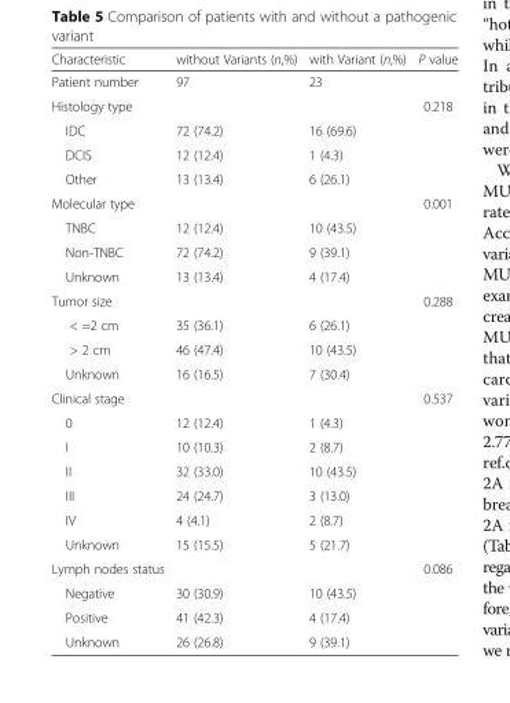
<table><thead><tr><td>Characteristic</td><td>without Variants (n,%)</td><td>with Variant (n,%)</td><td>P value</td></tr></thead><tbody><tr><td>Patient number</td><td>97</td><td>23</td><td></td></tr><tr><td>Histology type</td><td></td><td></td><td>0.218</td></tr><tr><td>IDC</td><td>72 (74.2)</td><td>16 (69.6)</td><td></td></tr><tr><td>DCIS</td><td>12 (12.4)</td><td>1 (4.3)</td><td></td></tr><tr><td>Other</td><td>13 (13.4)</td><td>6 (26.1)</td><td></td></tr><tr><td>Molecular type</td><td></td><td></td><td>0.001</td></tr><tr><td>TNBC</td><td>12 (12.4)</td><td>10 (43.5)</td><td></td></tr><tr><td>Non-TNBC</td><td>72 (74.2)</td><td>9 (39.1)</td><td></td></tr><tr><td>Unknown</td><td>13 (13.4)</td><td>4 (17.4)</td><td></td></tr><tr><td>Tumor size</td><td></td><td></td><td>0.288</td></tr><tr><td>&lt; =2 cm</td><td>35 (36.1)</td><td>6 (26.1)</td><td></td></tr><tr><td>&gt; 2 cm</td><td>46 (47.4)</td><td>10 (43.5)</td><td></td></tr><tr><td>Unknown</td><td>16 (16.5)</td><td>7 (30.4)</td><td></td></tr><tr><td>Clinical stage</td><td></td><td></td><td>0.537</td></tr><tr><td>0</td><td>12 (12.4)</td><td>1 (4.3)</td><td></td></tr><tr><td>I</td><td>10 (10.3)</td><td>2 (8.7)</td><td></td></tr><tr><td>II</td><td>32 (33.0)</td><td>10 (43.5)</td><td></td></tr><tr><td>III</td><td>24 (24.7)</td><td>3 (13.0)</td><td></td></tr><tr><td>IV</td><td>4 (4.1)</td><td>2 (8.7)</td><td></td></tr><tr><td>Unknown</td><td>15 (15.5)</td><td>5 (21.7)</td><td></td></tr><tr><td>Lymph nodes status</td><td></td><td></td><td>0.086</td></tr><tr><td>Negative</td><td>30 (30.9)</td><td>10 (43.5)</td><td></td></tr><tr><td>Positive</td><td>41 (42.3)</td><td>4 (17.4)</td><td></td></tr><tr><td>Unknown</td><td>26 (26.8)</td><td>9 (39.1)</td><td></td></tr></tbody></table>